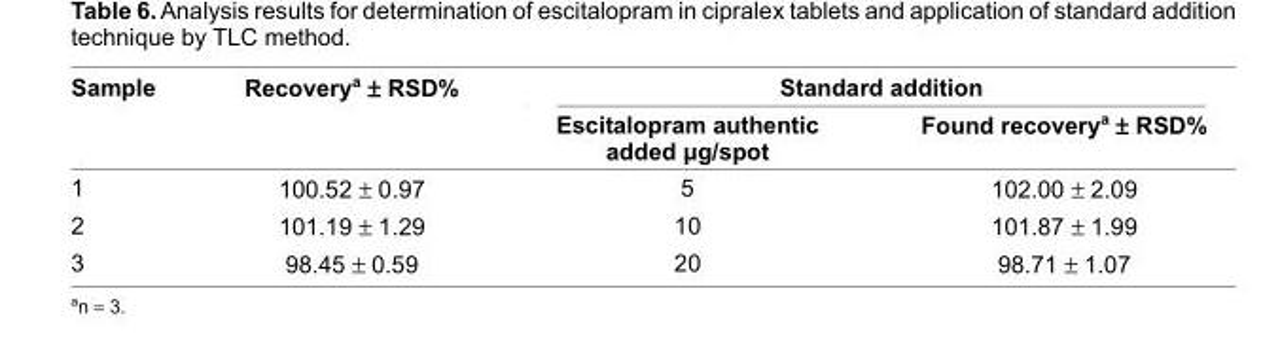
<table><thead><tr><td rowspan="2">Sample</td><td rowspan="2">Recovery<sup>a</sup> ± RSD%</td><td colspan="2">Standard addition</td></tr><tr><td>Escitalopram authentic added μg/spot</td><td>Found recovery<sup>a</sup> ± RSD%</td></tr></thead><tbody><tr><td>1</td><td>100.52 ± 0.97</td><td>5</td><td>102.00 ± 2.09</td></tr><tr><td>2</td><td>101.19 ± 1.29</td><td>10</td><td>101.87 ± 1.99</td></tr><tr><td>3</td><td>98.45 ± 0.59</td><td>20</td><td>98.71 ± 1.07</td></tr></tbody></table>